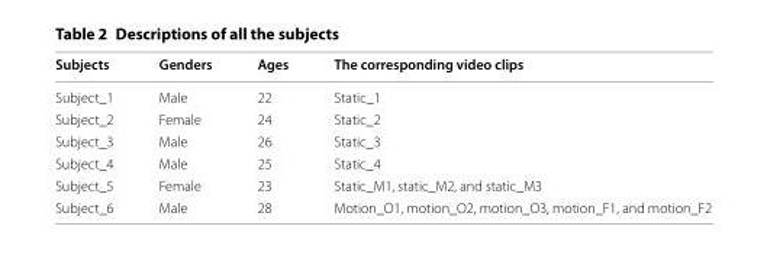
<table><thead><tr><td>Subjects</td><td>Genders</td><td>Ages</td><td>The corresponding video clips</td></tr></thead><tbody><tr><td>Subject_1</td><td>Male</td><td>22</td><td>Static_1</td></tr><tr><td>Subject_2</td><td>Female</td><td>24</td><td>Static_2</td></tr><tr><td>Subject_3</td><td>Male</td><td>26</td><td>Static_3</td></tr><tr><td>Subject_4</td><td>Male</td><td>25</td><td>Static_4</td></tr><tr><td>Subject_5</td><td>Female</td><td>23</td><td>Static_M1, static_M2, and static_M3</td></tr><tr><td>Subject_6</td><td>Male</td><td>28</td><td>Motion_O1, motion_O2, motion_O3, motion_F1, and motion_F2</td></tr></tbody></table>